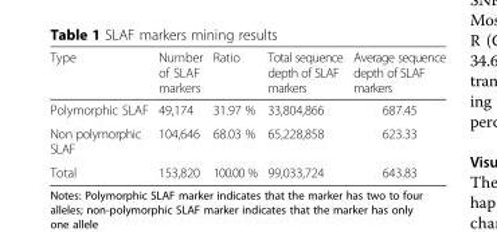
<table><thead><tr><td>Type</td><td>Number of SLAF markers</td><td>Ratio</td><td>Total sequence depth of SLAF markers</td><td>Average sequence depth of SLAF markers</td></tr></thead><tbody><tr><td>Polymorphic SLAF</td><td>49,174</td><td>31.97 %</td><td>33,804,866</td><td>687.45</td></tr><tr><td>Non polymorphic SLAF</td><td>104,646</td><td>68.03 %</td><td>65,228,858</td><td>623.33</td></tr><tr><td>Total</td><td>153,820</td><td>100.00 %</td><td>99,033,724</td><td>643.83</td></tr></tbody></table>